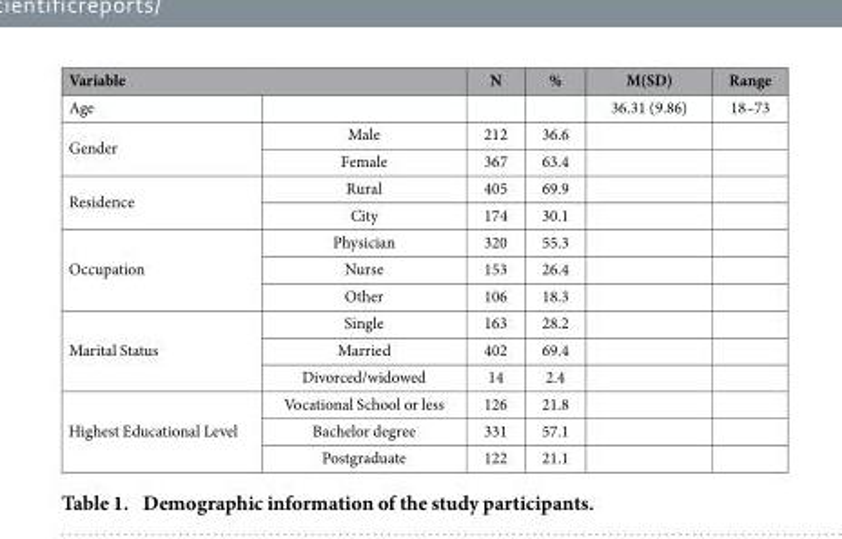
<table><thead><tr><td colspan="2">Variable</td><td rowspan="2">N</td><td rowspan="2">%</td><td rowspan="2">M(SD) 36.31 (9.86)</td><td rowspan="2">Range 18–73</td></tr><tr><td>Age</td><td></td></tr></thead><tbody><tr><td rowspan="2">Gender</td><td>Male</td><td>212</td><td>36.6</td><td></td><td></td></tr><tr><td>Female</td><td>367</td><td>63.4</td><td></td><td></td></tr><tr><td rowspan="2">Residence</td><td>Rural</td><td>405</td><td>69.9</td><td></td><td></td></tr><tr><td>City</td><td>174</td><td>30.1</td><td></td><td></td></tr><tr><td rowspan="3">Occupation</td><td>Physician</td><td>320</td><td>55.3</td><td></td><td></td></tr><tr><td>Nurse</td><td>153</td><td>26.4</td><td></td><td></td></tr><tr><td>Other</td><td>106</td><td>18.3</td><td></td><td></td></tr><tr><td rowspan="3">Marital Status</td><td>Single</td><td>163</td><td>28.2</td><td></td><td></td></tr><tr><td>Married</td><td>402</td><td>69.4</td><td></td><td></td></tr><tr><td>Divorced/widowed</td><td>14</td><td>2.4</td><td></td><td></td></tr><tr><td rowspan="3">Highest Educational Level</td><td>Vocational School or less</td><td>126</td><td>21.8</td><td></td><td></td></tr><tr><td>Bachelor degree</td><td>331</td><td>57.1</td><td></td><td></td></tr><tr><td>Postgraduate</td><td>122</td><td>21.1</td><td></td><td></td></tr></tbody></table>